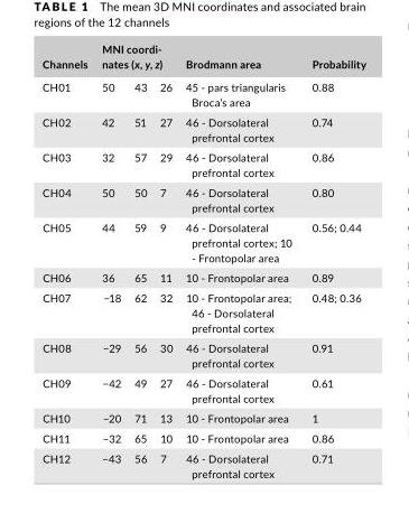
<table><thead><tr><td rowspan="2">Channels CH01</td><td colspan="3">MNI coordi- nates (x, y, z)</td><td rowspan="2">Brodmann area 45 - pars triangularis Broca’s area</td><td rowspan="2">Probability 0.88</td></tr><tr><td>50</td><td>43</td><td>26</td></tr></thead><tbody><tr><td>CH02</td><td>42</td><td>51</td><td>27</td><td>46 - Dorsolateral prefrontal cortex</td><td>0.74</td></tr><tr><td>CH03</td><td>32</td><td>57</td><td>29</td><td>46 - Dorsolateral prefrontal cortex</td><td>0.86</td></tr><tr><td>CH04</td><td>50</td><td>50</td><td>7</td><td>46 - Dorsolateral prefrontal cortex</td><td>0.80</td></tr><tr><td>CH05</td><td>44</td><td>59</td><td>9</td><td>46 - Dorsolateral prefrontal cortex; 10 - Frontopolar area</td><td>0.56; 0.44</td></tr><tr><td>CH06</td><td>36</td><td>65</td><td>11</td><td>10 - Frontopolar area</td><td>0.89</td></tr><tr><td>CH07</td><td>−18</td><td>62</td><td>32</td><td>10 - Frontopolar area; 46 - Dorsolateral prefrontal cortex</td><td>0.48; 0.36</td></tr><tr><td>CH08</td><td>−29</td><td>56</td><td>30</td><td>46 - Dorsolateral prefrontal cortex</td><td>0.91</td></tr><tr><td>CH09</td><td>−42</td><td>49</td><td>27</td><td>46 - Dorsolateral prefrontal cortex</td><td>0.61</td></tr><tr><td>CH10</td><td>−20</td><td>71</td><td>13</td><td>10 - Frontopolar area</td><td>1</td></tr><tr><td>CH11</td><td>−32</td><td>65</td><td>10</td><td>10 - Frontopolar area</td><td>0.86</td></tr><tr><td>CH12</td><td>−43</td><td>56</td><td>7</td><td>46 - Dorsolateral prefrontal cortex</td><td>0.71</td></tr></tbody></table>